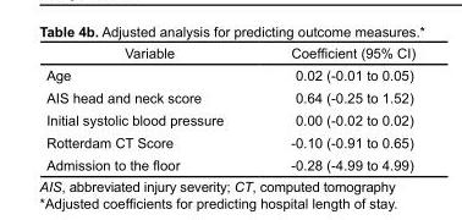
<table><thead><tr><td>Variable</td><td>Coefficient (95% CI)</td></tr></thead><tbody><tr><td>Age</td><td>0.02 (-0.01 to 0.05)</td></tr><tr><td>AIS head and neck score</td><td>0.64 (-0.25 to 1.52)</td></tr><tr><td>Initial systolic blood pressure</td><td>0.00 (-0.02 to 0.02)</td></tr><tr><td>Rotterdam CT Score</td><td>-0.10 (-0.91 to 0.65)</td></tr><tr><td>Admission to the floor</td><td>-0.28 (-4.99 to 4.99)</td></tr></tbody></table>